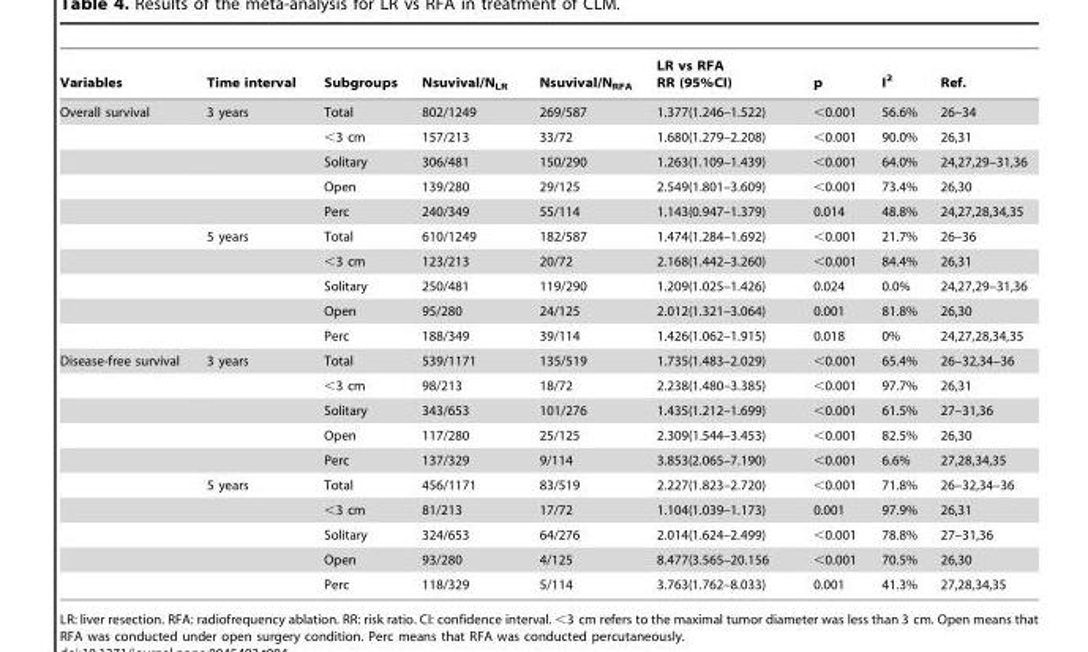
<table><thead><tr><td>Variables</td><td>Time interval</td><td>Subgroups</td><td>Nsuvival/N<sub>LR</sub></td><td>Nsuvival/N<sub>RFA</sub></td><td>LR vs RFA RR (95%CI)</td><td>p</td><td>I<sup>2</sup></td><td>Ref.</td></tr></thead><tbody><tr><td rowspan="10">Overall survival</td><td>3 years</td><td>Total</td><td>802/1249</td><td>269/587</td><td>1.377(1.246–1.522)</td><td>&lt;0.001</td><td>56.6%</td><td>26–34</td></tr><tr><td></td><td>&lt;3 cm</td><td>157/213</td><td>33/72</td><td>1.680(1.279–2.208)</td><td>&lt;0.001</td><td>90.0%</td><td>26,31</td></tr><tr><td></td><td>Solitary</td><td>306/481</td><td>150/290</td><td>1.263(1.109–1.439)</td><td>&lt;0.001</td><td>64.0%</td><td>24,27,29–31,36</td></tr><tr><td></td><td>Open</td><td>139/280</td><td>29/125</td><td>2.549(1.801–3.609)</td><td>&lt;0.001</td><td>73.4%</td><td>26,30</td></tr><tr><td></td><td>Perc</td><td>240/349</td><td>55/114</td><td>1.143(0.947–1.379)</td><td>0.014</td><td>48.8%</td><td>24,27,28,34,35</td></tr><tr><td>5 years</td><td>Total</td><td>610/1249</td><td>182/587</td><td>1.474(1.284–1.692)</td><td>&lt;0.001</td><td>21.7%</td><td>26–36</td></tr><tr><td></td><td>&lt;3 cm</td><td>123/213</td><td>20/72</td><td>2.168(1.442–3.260)</td><td>&lt;0.001</td><td>84.4%</td><td>26,31</td></tr><tr><td></td><td>Solitary</td><td>250/481</td><td>119/290</td><td>1.209(1.025–1.426)</td><td>0.024</td><td>0.0%</td><td>24,27,29–31,36</td></tr><tr><td></td><td>Open</td><td>95/280</td><td>24/125</td><td>2.012(1.321–3.064)</td><td>0.001</td><td>81.8%</td><td>26,30</td></tr><tr><td></td><td>Perc</td><td>188/349</td><td>39/114</td><td>1.426(1.062–1.915)</td><td>0.018</td><td>0%</td><td>24,27,28,34,35</td></tr><tr><td rowspan="10">Disease-free survival</td><td>3 years</td><td>Total</td><td>539/1171</td><td>135/519</td><td>1.735(1.483–2.029)</td><td>&lt;0.001</td><td>65.4%</td><td>26–32,34–36</td></tr><tr><td></td><td>&lt;3 cm</td><td>98/213</td><td>18/72</td><td>2.238(1.480–3.385)</td><td>&lt;0.001</td><td>97.7%</td><td>26,31</td></tr><tr><td></td><td>Solitary</td><td>343/653</td><td>101/276</td><td>1.435(1.212–1.699)</td><td>&lt;0.001</td><td>61.5%</td><td>27–31,36</td></tr><tr><td></td><td>Open</td><td>117/280</td><td>25/125</td><td>2.309(1.544–3.453)</td><td>&lt;0.001</td><td>82.5%</td><td>26,30</td></tr><tr><td></td><td>Perc</td><td>137/329</td><td>9/114</td><td>3.853(2.065–7.190)</td><td>&lt;0.001</td><td>6.6%</td><td>27,28,34,35</td></tr><tr><td>5 years</td><td>Total</td><td>456/1171</td><td>83/519</td><td>2.227(1.823–2.720)</td><td>&lt;0.001</td><td>71.8%</td><td>26–32,34–36</td></tr><tr><td></td><td>&lt;3 cm</td><td>81/213</td><td>17/72</td><td>1.104(1.039–1.173)</td><td>0.001</td><td>97.9%</td><td>26,31</td></tr><tr><td></td><td>Solitary</td><td>324/653</td><td>64/276</td><td>2.014(1.624–2.499)</td><td>&lt;0.001</td><td>78.8%</td><td>27–31,36</td></tr><tr><td></td><td>Open</td><td>93/280</td><td>4/125</td><td>8.477(3.565–20.156</td><td>&lt;0.001</td><td>70.5%</td><td>26,30</td></tr><tr><td></td><td>Perc</td><td>118/329</td><td>5/114</td><td>3.763(1.762–8.033)</td><td>0.001</td><td>41.3%</td><td>27,28,34,35</td></tr></tbody></table>